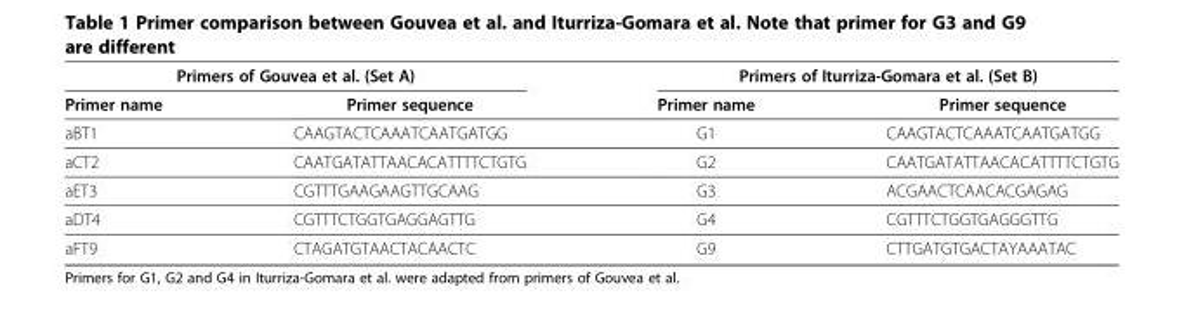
<table><thead><tr><td colspan="2">Primers of Gouvea et al. (Set A)</td><td colspan="2">Primers of Iturriza-Gomara et al. (Set B)</td></tr><tr><td>Primer name</td><td>Primer sequence</td><td>Primer name</td><td>Primer sequence</td></tr></thead><tbody><tr><td>aBT1</td><td>CAAGTACTCAAATCAATGATGG</td><td>G1</td><td>CAAGTACTCAAATCAATGATGG</td></tr><tr><td>aCT2</td><td>CAATGATATTAACACATTTTCTGTG</td><td>G2</td><td>CAATGATATTAACACATTTTCTGTG</td></tr><tr><td>aET3</td><td>CGTTTGAAGAAGTTGCAAG</td><td>G3</td><td>ACGAACTCAACACGAGAG</td></tr><tr><td>aDT4</td><td>CGTTTCTGGTGAGGAGTTG</td><td>G4</td><td>CGTTTCTGGTGAGGGTTG</td></tr><tr><td>aFT9</td><td>CTAGATGTAACTACAACTC</td><td>G9</td><td>CTTGATGTGACTAYAAATAC</td></tr></tbody></table>